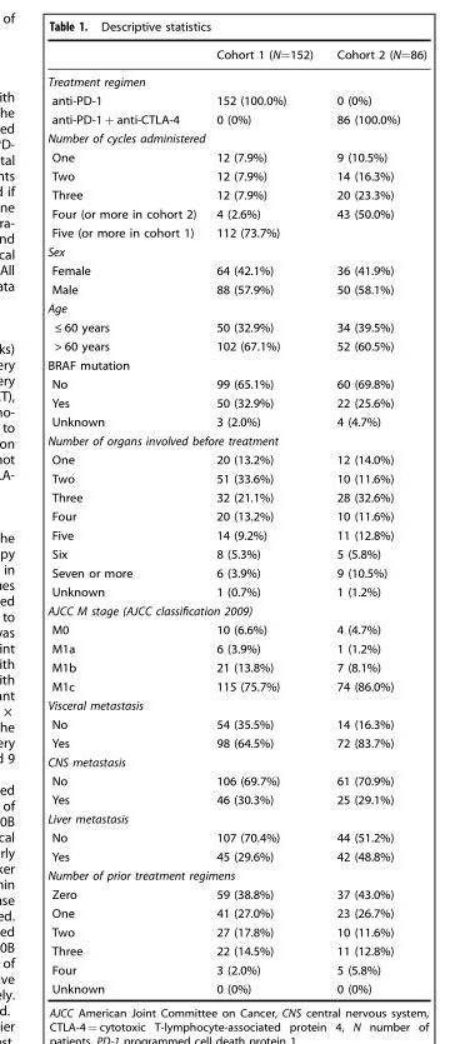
<table><thead><tr><td></td><td>Cohort 1 (N=152)</td><td>Cohort 2 (N=86)</td></tr></thead><tbody><tr><td colspan="3">Treatment regimen</td></tr><tr><td>anti-PD-1</td><td>152 (100.0%)</td><td>0 (0%)</td></tr><tr><td>anti-PD-1 + anti-CTLA-4</td><td>0 (0%)</td><td>86 (100.0%)</td></tr><tr><td colspan="3">Number of cycles administered</td></tr><tr><td>One</td><td>12 (7.9%)</td><td>9 (10.5%)</td></tr><tr><td>Two</td><td>12 (7.9%)</td><td>14 (16.3%)</td></tr><tr><td>Three</td><td>12 (7.9%)</td><td>20 (23.3%)</td></tr><tr><td>Four (or more in cohort 2)</td><td>4 (2.6%)</td><td>43 (50.0%)</td></tr><tr><td>Five (or more in cohort 1)</td><td>112 (73.7%)</td><td></td></tr><tr><td colspan="3">Sex</td></tr><tr><td>Female</td><td>64 (42.1%)</td><td>36 (41.9%)</td></tr><tr><td>Male</td><td>88 (57.9%)</td><td>50 (58.1%)</td></tr><tr><td colspan="3">Age</td></tr><tr><td>≤ 60 years</td><td>50 (32.9%)</td><td>34 (39.5%)</td></tr><tr><td>&gt; 60 years</td><td>102 (67.1%)</td><td>52 (60.5%)</td></tr><tr><td colspan="3">BRAF mutation</td></tr><tr><td>No</td><td>99 (65.1%)</td><td>60 (69.8%)</td></tr><tr><td>Yes</td><td>50 (32.9%)</td><td>22 (25.6%)</td></tr><tr><td>Unknown</td><td>3 (2.0%)</td><td>4 (4.7%)</td></tr><tr><td colspan="3">Number of organs involved before treatment</td></tr><tr><td>One</td><td>20 (13.2%)</td><td>12 (14.0%)</td></tr><tr><td>Two</td><td>51 (33.6%)</td><td>10 (11.6%)</td></tr><tr><td>Three</td><td>32 (21.1%)</td><td>28 (32.6%)</td></tr><tr><td>Four</td><td>20 (13.2%)</td><td>10 (11.6%)</td></tr><tr><td>Five</td><td>14 (9.2%)</td><td>11 (12.8%)</td></tr><tr><td>Six</td><td>8 (5.3%)</td><td>5 (5.8%)</td></tr><tr><td>Seven or more</td><td>6 (3.9%)</td><td>9 (10.5%)</td></tr><tr><td>Unknown</td><td>1 (0.7%)</td><td>1 (1.2%)</td></tr><tr><td colspan="3">AJCC M stage (AJCC classification 2009)</td></tr><tr><td>M0</td><td>10 (6.6%)</td><td>4 (4.7%)</td></tr><tr><td>M1a</td><td>6 (3.9%)</td><td>1 (1.2%)</td></tr><tr><td>M1b</td><td>21 (13.8%)</td><td>7 (8.1%)</td></tr><tr><td>M1c</td><td>115 (75.7%)</td><td>74 (86.0%)</td></tr><tr><td colspan="3">Visceral metastasis</td></tr><tr><td>No</td><td>54 (35.5%)</td><td>14 (16.3%)</td></tr><tr><td>Yes</td><td>98 (64.5%)</td><td>72 (83.7%)</td></tr><tr><td colspan="3">CNS metastasis</td></tr><tr><td>No</td><td>106 (69.7%)</td><td>61 (70.9%)</td></tr><tr><td>Yes</td><td>46 (30.3%)</td><td>25 (29.1%)</td></tr><tr><td colspan="3">Liver metastasis</td></tr><tr><td>No</td><td>107 (70.4%)</td><td>44 (51.2%)</td></tr><tr><td>Yes</td><td>45 (29.6%)</td><td>42 (48.8%)</td></tr><tr><td colspan="3">Number of prior treatment regimens</td></tr><tr><td>Zero</td><td>59 (38.8%)</td><td>37 (43.0%)</td></tr><tr><td>One</td><td>41 (27.0%)</td><td>23 (26.7%)</td></tr><tr><td>Two</td><td>27 (17.8%)</td><td>10 (11.6%)</td></tr><tr><td>Three</td><td>22 (14.5%)</td><td>11 (12.8%)</td></tr><tr><td>Four</td><td>3 (2.0%)</td><td>5 (5.8%)</td></tr><tr><td>Unknown</td><td>0 (0%)</td><td>0 (0%)</td></tr></tbody></table>